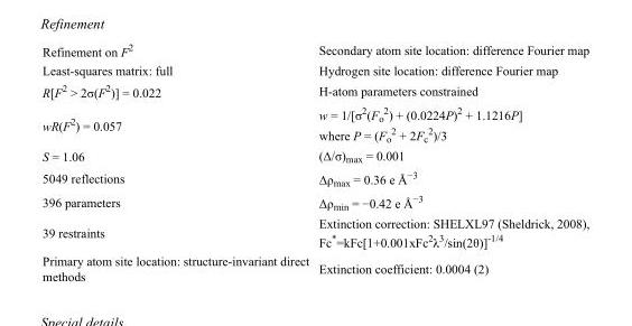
<table><tbody><tr><td>Refinement on F<sup>2</sup></td><td>Secondary atom site location: difference Fourier map</td></tr><tr><td>Least-squares matrix: full</td><td>Hydrogen site location: difference Fourier map</td></tr><tr><td>R[F<sup>2</sup> &gt; 2σ(F<sup>2</sup>)] = 0.022</td><td>H-atom parameters constrained</td></tr><tr><td>wR(F<sup>2</sup>) = 0.057</td><td>w = 1/[σ<sup>2</sup>(F<sub>o</sub> <sup>2</sup>) + (0.0224P)<sup>2</sup> + 1.1216P] where P = (F<sub>o</sub> <sup>2</sup> + 2F<sub>c</sub> <sup>2</sup>)/3</td></tr><tr><td>S = 1.06</td><td>(Δ/σ)<sub>max</sub> = 0.001</td></tr><tr><td>5049 reflections</td><td>Δρ<sub>max</sub> = 0.36 e Å<sup>−3</sup></td></tr><tr><td>396 parameters</td><td>Δρ<sub>min</sub> = −0.42 e Å<sup>−3</sup></td></tr><tr><td>39 restraints</td><td>Extinction correction: SHELXL97 (Sheldrick, 2008), Fc*=kFc[1+0.001xFc<sup>2</sup>λ<sup>3</sup>/sin(2θ)]<sup>-1/4</sup></td></tr><tr><td>Primary atom site location: structure-invariant direct methods</td><td>Extinction coefficient: 0.0004 (2)</td></tr></tbody></table>